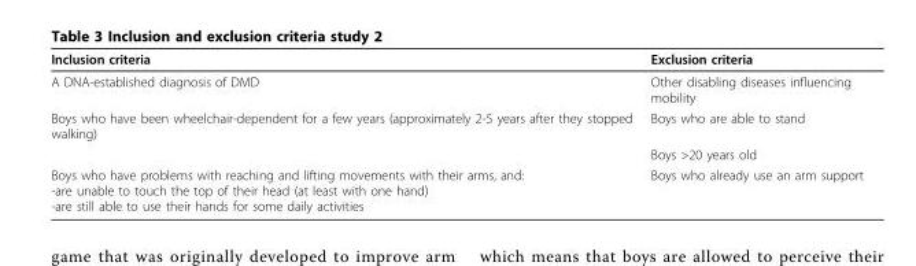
<table><thead><tr><td>Inclusion criteria</td><td>Exclusion criteria</td></tr></thead><tbody><tr><td>A DNA-established diagnosis of DMD</td><td>Other disabling diseases influencing mobility</td></tr><tr><td rowspan="2">Boys who have been wheelchair-dependent for a few years (approximately 2-5 years after they stopped walking)</td><td>Boys who are able to stand</td></tr><tr><td>Boys &gt;20 years old</td></tr><tr><td>Boys who have problems with reaching and lifting movements with their arms, and: -are unable to touch the top of their head (at least with one hand) -are still able to use their hands for some daily activities</td><td>Boys who already use an arm support</td></tr></tbody></table>